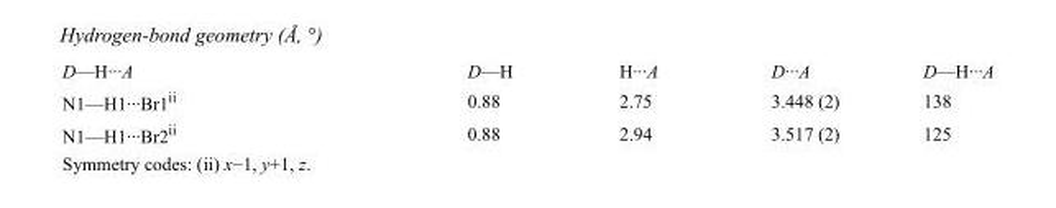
<table><tbody><tr><td>D—H···A</td><td>D—H</td><td>H···A</td><td>D···A</td><td>D—H···A</td></tr><tr><td>N1—H1···Br1<sup>ii</sup></td><td>0.88</td><td>2.75</td><td>3.448 (2)</td><td>138</td></tr><tr><td>N1—H1···Br2<sup>ii</sup></td><td>0.88</td><td>2.94</td><td>3.517 (2)</td><td>125</td></tr></tbody></table>